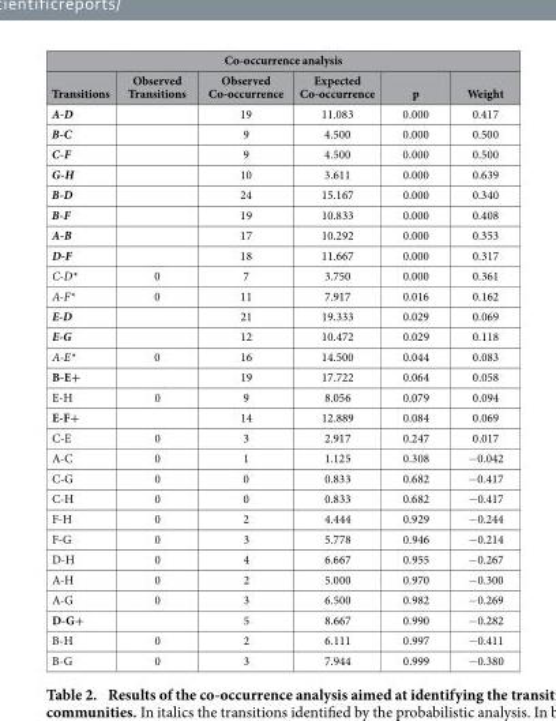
<table><thead><tr><td colspan="6">Co-occurrence analysis</td></tr><tr><td>Transitions</td><td>Observed Transitions</td><td>Observed Co-occurrence</td><td>Expected Co-occurrence</td><td>p</td><td>Weight</td></tr></thead><tbody><tr><td>A-D</td><td></td><td>19</td><td>11.083</td><td>0.000</td><td>0.417</td></tr><tr><td>B-C</td><td></td><td>9</td><td>4.500</td><td>0.000</td><td>0.500</td></tr><tr><td>C-F</td><td></td><td>9</td><td>4.500</td><td>0.000</td><td>0.500</td></tr><tr><td>G-H</td><td></td><td>10</td><td>3.611</td><td>0.000</td><td>0.639</td></tr><tr><td>B-D</td><td></td><td>24</td><td>15.167</td><td>0.000</td><td>0.340</td></tr><tr><td>B-F</td><td></td><td>19</td><td>10.833</td><td>0.000</td><td>0.408</td></tr><tr><td>A-B</td><td></td><td>17</td><td>10.292</td><td>0.000</td><td>0.353</td></tr><tr><td>D-F</td><td></td><td>18</td><td>11.667</td><td>0.000</td><td>0.317</td></tr><tr><td>C-D*</td><td>0</td><td>7</td><td>3.750</td><td>0.000</td><td>0.361</td></tr><tr><td>A-F*</td><td>0</td><td>11</td><td>7.917</td><td>0.016</td><td>0.162</td></tr><tr><td>E-D</td><td></td><td>21</td><td>19.333</td><td>0.029</td><td>0.069</td></tr><tr><td>E-G</td><td></td><td>12</td><td>10.472</td><td>0.029</td><td>0.118</td></tr><tr><td>A-E*</td><td>0</td><td>16</td><td>14.500</td><td>0.044</td><td>0.083</td></tr><tr><td>B-E+</td><td></td><td>19</td><td>17.722</td><td>0.064</td><td>0.058</td></tr><tr><td>E-H</td><td>0</td><td>9</td><td>8.056</td><td>0.079</td><td>0.094</td></tr><tr><td>E-F+</td><td></td><td>14</td><td>12.889</td><td>0.084</td><td>0.069</td></tr><tr><td>C-E</td><td>0</td><td>3</td><td>2.917</td><td>0.247</td><td>0.017</td></tr><tr><td>A-C</td><td>0</td><td>1</td><td>1.125</td><td>0.308</td><td>− 0.042</td></tr><tr><td>C-G</td><td>0</td><td>0</td><td>0.833</td><td>0.682</td><td>− 0.417</td></tr><tr><td>C-H</td><td>0</td><td>0</td><td>0.833</td><td>0.682</td><td>− 0.417</td></tr><tr><td>F-H</td><td>0</td><td>2</td><td>4.444</td><td>0.929</td><td>− 0.244</td></tr><tr><td>F-G</td><td>0</td><td>3</td><td>5.778</td><td>0.946</td><td>− 0.214</td></tr><tr><td>D-H</td><td>0</td><td>4</td><td>6.667</td><td>0.955</td><td>− 0.267</td></tr><tr><td>A-H</td><td>0</td><td>2</td><td>5.000</td><td>0.970</td><td>− 0.300</td></tr><tr><td>A-G</td><td>0</td><td>3</td><td>6.500</td><td>0.982</td><td>− 0.269</td></tr><tr><td>D-G+</td><td></td><td>5</td><td>8.667</td><td>0.990</td><td>− 0.282</td></tr><tr><td>B-H</td><td>0</td><td>2</td><td>6.111</td><td>0.997</td><td>− 0.411</td></tr><tr><td>B-G</td><td>0</td><td>3</td><td>7.944</td><td>0.999</td><td>− 0.380</td></tr></tbody></table>